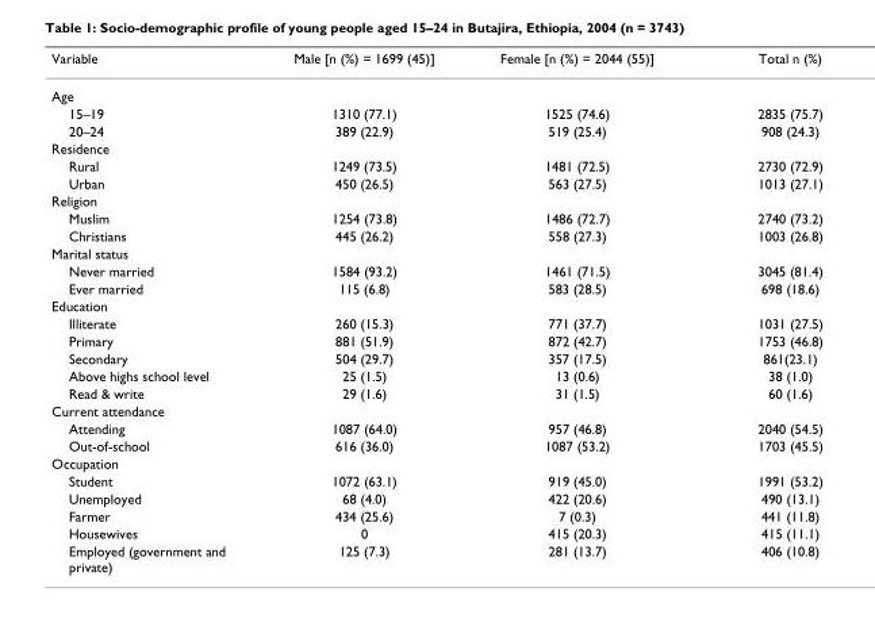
<table><thead><tr><td>Variable</td><td>Male [n (%) = 1699 (45)]</td><td>Female [n (%) = 2044 (55)]</td><td>Total n (%)</td></tr></thead><tbody><tr><td colspan="4">Age</td></tr><tr><td>15–19</td><td>1310 (77.1)</td><td>1525 (74.6)</td><td>2835 (75.7)</td></tr><tr><td>20–24</td><td>389 (22.9)</td><td>519 (25.4)</td><td>908 (24.3)</td></tr><tr><td colspan="4">Residence</td></tr><tr><td>Rural</td><td>1249 (73.5)</td><td>1481 (72.5)</td><td>2730 (72.9)</td></tr><tr><td>Urban</td><td>450 (26.5)</td><td>563 (27.5)</td><td>1013 (27.1)</td></tr><tr><td colspan="4">Religion</td></tr><tr><td>Muslim</td><td>1254 (73.8)</td><td>1486 (72.7)</td><td>2740 (73.2)</td></tr><tr><td>Christians</td><td>445 (26.2)</td><td>558 (27.3)</td><td>1003 (26.8)</td></tr><tr><td colspan="4">Marital status</td></tr><tr><td>Never married</td><td>1584 (93.2)</td><td>1461 (71.5)</td><td>3045 (81.4)</td></tr><tr><td>Ever married</td><td>115 (6.8)</td><td>583 (28.5)</td><td>698 (18.6)</td></tr><tr><td colspan="4">Education</td></tr><tr><td>Illiterate</td><td>260 (15.3)</td><td>771 (37.7)</td><td>1031 (27.5)</td></tr><tr><td>Primary</td><td>881 (51.9)</td><td>872 (42.7)</td><td>1753 (46.8)</td></tr><tr><td>Secondary</td><td>504 (29.7)</td><td>357 (17.5)</td><td>861(23.1)</td></tr><tr><td>Above highs school level</td><td>25 (1.5)</td><td>13 (0.6)</td><td>38 (1.0)</td></tr><tr><td>Read &amp; write</td><td>29 (1.6)</td><td>31 (1.5)</td><td>60 (1.6)</td></tr><tr><td colspan="4">Current attendance</td></tr><tr><td>Attending</td><td>1087 (64.0)</td><td>957 (46.8)</td><td>2040 (54.5)</td></tr><tr><td>Out-of-school</td><td>616 (36.0)</td><td>1087 (53.2)</td><td>1703 (45.5)</td></tr><tr><td colspan="4">Occupation</td></tr><tr><td>Student</td><td>1072 (63.1)</td><td>919 (45.0)</td><td>1991 (53.2)</td></tr><tr><td>Unemployed</td><td>68 (4.0)</td><td>422 (20.6)</td><td>490 (13.1)</td></tr><tr><td>Farmer</td><td>434 (25.6)</td><td>7 (0.3)</td><td>441 (11.8)</td></tr><tr><td>Housewives</td><td>0</td><td>415 (20.3)</td><td>415 (11.1)</td></tr><tr><td>Employed (government and private)</td><td>125 (7.3)</td><td>281 (13.7)</td><td>406 (10.8)</td></tr></tbody></table>